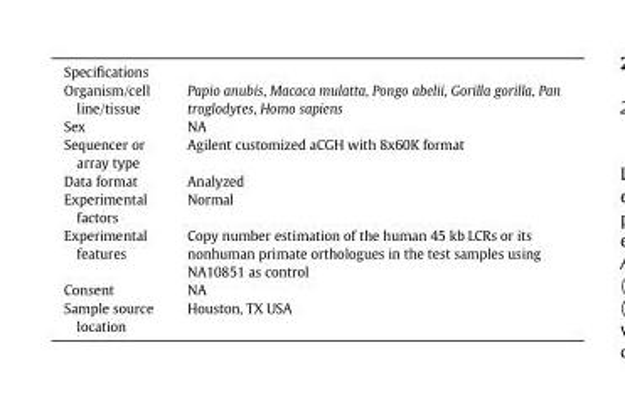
<table><tbody><tr><td colspan="2">Specifications</td></tr><tr><td>Organism/cell line/tissue</td><td>Papio anubis, Macaca mulatta, Pongo abelii, Gorilla gorilla, Pan troglodytes, Homo sapiens</td></tr><tr><td>Sex</td><td>NA</td></tr><tr><td>Sequencer or array type</td><td>Agilent customized aCGH with 8x60K format</td></tr><tr><td>Data format</td><td>Analyzed</td></tr><tr><td>Experimental factors</td><td>Normal</td></tr><tr><td>Experimental features</td><td>Copy number estimation of the human 45 kb LCRs or its nonhuman primate orthologues in the test samples using NA10851 as control</td></tr><tr><td>Consent</td><td>NA</td></tr><tr><td>Sample source location</td><td>Houston, TX USA</td></tr></tbody></table>